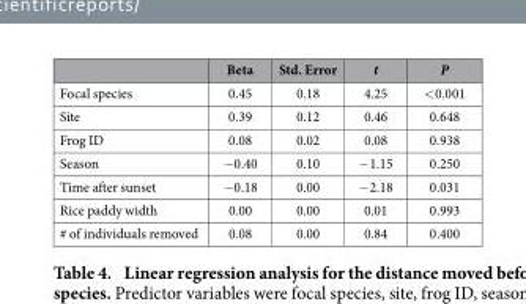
<table><thead><tr><td></td><td>Beta</td><td>Std. Error</td><td>t</td><td>P</td></tr></thead><tbody><tr><td>Focal species</td><td>0.45</td><td>0.18</td><td>4.25</td><td>&lt; 0.001</td></tr><tr><td>Site</td><td>0.39</td><td>0.12</td><td>0.46</td><td>0.648</td></tr><tr><td>Frog ID</td><td>0.08</td><td>0.02</td><td>0.08</td><td>0.938</td></tr><tr><td>Season</td><td>− 0.40</td><td>0.10</td><td>− 1.15</td><td>0.250</td></tr><tr><td>Time after sunset</td><td>− 0.18</td><td>0.00</td><td>− 2.18</td><td>0.031</td></tr><tr><td>Rice paddy width</td><td>0.00</td><td>0.00</td><td>0.01</td><td>0.993</td></tr><tr><td># of individuals removed</td><td>0.08</td><td>0.00</td><td>0.84</td><td>0.400</td></tr></tbody></table>